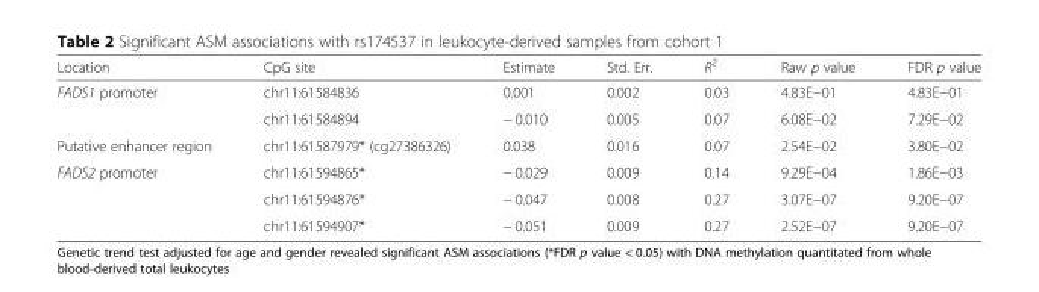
<table><thead><tr><td>Location</td><td>CpG site</td><td>Estimate</td><td>Std. Err.</td><td>R<sup>2</sup></td><td>Raw p value</td><td>FDR p value</td></tr></thead><tbody><tr><td rowspan="2">FADS1 promoter</td><td>chr11:61584836</td><td>0.001</td><td>0.002</td><td>0.03</td><td>4.83E−01</td><td>4.83E−01</td></tr><tr><td>chr11:61584894</td><td>− 0.010</td><td>0.005</td><td>0.07</td><td>6.08E−02</td><td>7.29E−02</td></tr><tr><td>Putative enhancer region</td><td>chr11:61587979* (cg27386326)</td><td>0.038</td><td>0.016</td><td>0.07</td><td>2.54E−02</td><td>3.80E−02</td></tr><tr><td rowspan="3">FADS2 promoter</td><td>chr11:61594865*</td><td>− 0.029</td><td>0.009</td><td>0.14</td><td>9.29E−04</td><td>1.86E−03</td></tr><tr><td>chr11:61594876*</td><td>− 0.047</td><td>0.008</td><td>0.27</td><td>3.07E−07</td><td>9.20E−07</td></tr><tr><td>chr11:61594907*</td><td>− 0.051</td><td>0.009</td><td>0.27</td><td>2.52E−07</td><td>9.20E−07</td></tr></tbody></table>